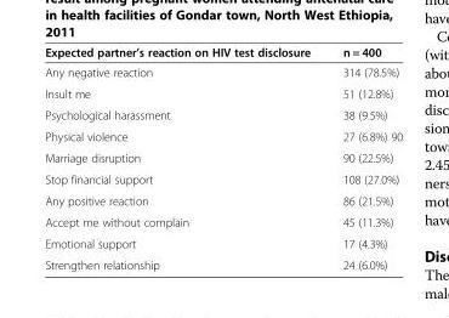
<table><thead><tr><td>Expected partner’s reaction on HIV test disclosure</td><td>n = 400</td></tr></thead><tbody><tr><td>Any negative reaction</td><td>314 (78.5%)</td></tr><tr><td>Insult me</td><td>51 (12.8%)</td></tr><tr><td>Psychological harassment</td><td>38 (9.5%)</td></tr><tr><td>Physical violence</td><td>27 (6.8%) 90</td></tr><tr><td>Marriage disruption</td><td>90 (22.5%)</td></tr><tr><td>Stop financial support</td><td>108 (27.0%)</td></tr><tr><td>Any positive reaction</td><td>86 (21.5%)</td></tr><tr><td>Accept me without complain</td><td>45 (11.3%)</td></tr><tr><td>Emotional support</td><td>17 (4.3%)</td></tr><tr><td>Strengthen relationship</td><td>24 (6.0%)</td></tr></tbody></table>